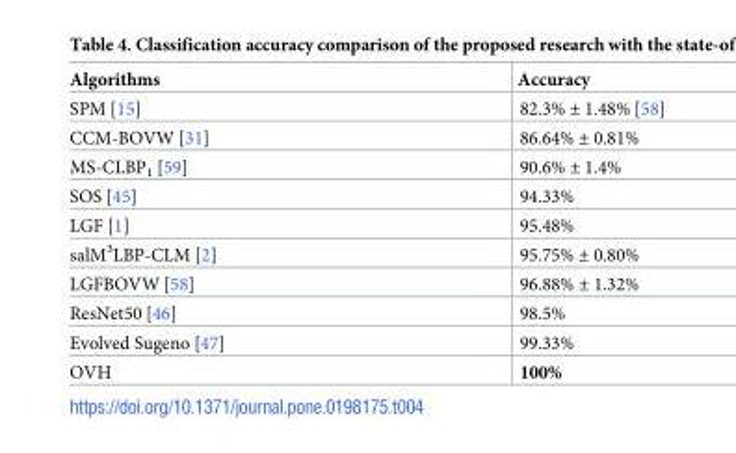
<table><thead><tr><td>Algorithms</td><td>Accuracy</td></tr></thead><tbody><tr><td>SPM [15]</td><td>82.3% ± 1.48% [58]</td></tr><tr><td>CCM-BOVW [31]</td><td>86.64% ± 0.81%</td></tr><tr><td>MS-CLBP<sub>1</sub> [59]</td><td>90.6% ± 1.4%</td></tr><tr><td>SOS [45]</td><td>94.33%</td></tr><tr><td>LGF [1]</td><td>95.48%</td></tr><tr><td>salM<sup>3</sup>LBP-CLM [2]</td><td>95.75% ± 0.80%</td></tr><tr><td>LGFBOVW [58]</td><td>96.88% ± 1.32%</td></tr><tr><td>ResNet50 [46]</td><td>98.5%</td></tr><tr><td>Evolved Sugeno [47]</td><td>99.33%</td></tr><tr><td>OVH</td><td>100%</td></tr></tbody></table>